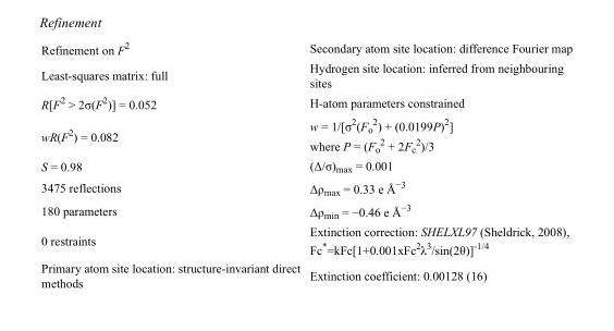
<table><tbody><tr><td>Refinement on F<sup>2</sup></td><td>Secondary atom site location: difference Fourier map</td></tr><tr><td>Least-squares matrix: full</td><td>Hydrogen site location: inferred from neighbouring sites</td></tr><tr><td>R[F<sup>2</sup> &gt; 2σ(F<sup>2</sup>)] = 0.052</td><td>H-atom parameters constrained</td></tr><tr><td>wR(F<sup>2</sup>) = 0.082</td><td>w = 1/[σ<sup>2</sup>(F<sub>o</sub> <sup>2</sup>) + (0.0199P)<sup>2</sup>] where P = (F<sub>o</sub> <sup>2</sup> + 2F<sub>c</sub> <sup>2</sup>)/3</td></tr><tr><td>S = 0.98</td><td>(Δ/σ)<sub>max</sub> = 0.001</td></tr><tr><td>3475 reflections</td><td>Δρ<sub>max</sub> = 0.33 e Å<sup>−3</sup></td></tr><tr><td>180 parameters</td><td>Δρ<sub>min</sub> = −0.46 e Å<sup>−3</sup></td></tr><tr><td>0 restraints</td><td>Extinction correction: SHELXL97 (Sheldrick, 2008), Fc*=kFc[1+0.001xFc<sup>2</sup>λ<sup>3</sup>/sin(2θ)]<sup>-1/4</sup></td></tr><tr><td>Primary atom site location: structure-invariant direct methods</td><td>Extinction coefficient: 0.00128 (16)</td></tr></tbody></table>